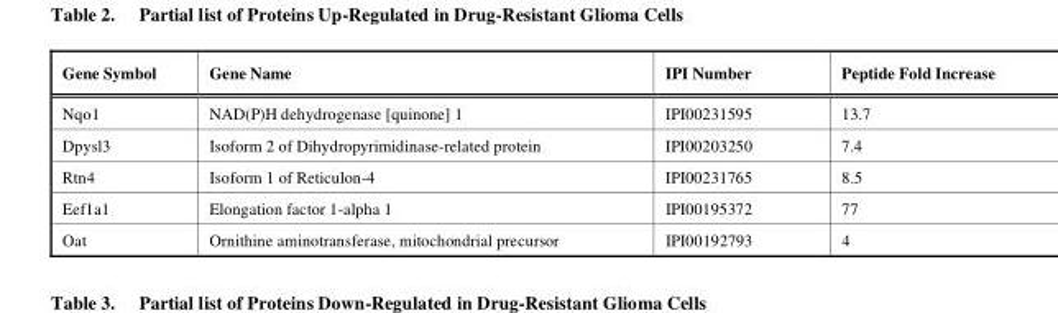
<table><thead><tr><td>Gene Symbol</td><td>Gene Name</td><td>IPI Number</td><td>Peptide Fold Increase</td></tr></thead><tbody><tr><td>Nqo1</td><td>NAD(P)H dehydrogenase [quinone] 1</td><td>IPI00231595</td><td>13.7</td></tr><tr><td>Dpysl3</td><td>Isoform 2 of Dihydropyrimidinase-related protein</td><td>IPI00203250</td><td>7.4</td></tr><tr><td>Rtn4</td><td>Isoform 1 of Reticulon-4</td><td>IPI00231765</td><td>8.5</td></tr><tr><td>Eef1a1</td><td>Elongation factor 1-alpha 1</td><td>IPI00195372</td><td>77</td></tr><tr><td>Oat</td><td>Ornithine aminotransferase, mitochondrial precursor</td><td>IPI00192793</td><td>4</td></tr></tbody></table>